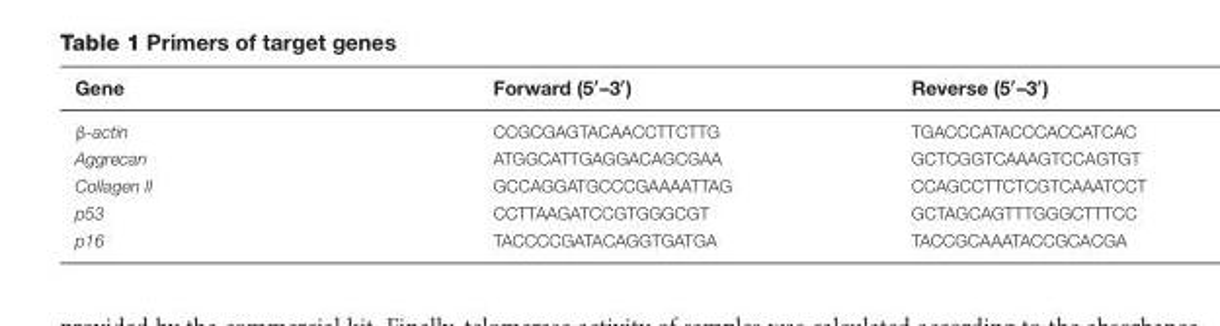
<table><thead><tr><td>Gene</td><td>Forward (5′–3′)</td><td>Reverse (5′–3′)</td></tr></thead><tbody><tr><td>β-actin</td><td>CCGCGAGTACAACCTTCTTG</td><td>TGACCCATACCCACCATCAC</td></tr><tr><td>Aggrecan</td><td>ATGGCATTGAGGACAGCGAA</td><td>GCTCGGTCAAAGTCCAGTGT</td></tr><tr><td>Collagen II</td><td>GCCAGGATGCCCGAAAATTAG</td><td>CCAGCCTTCTCGTCAAATCCT</td></tr><tr><td>p53</td><td>CCTTAAGATCCGTGGGCGT</td><td>GCTAGCAGTTTGGGCTTTCC</td></tr><tr><td>p16</td><td>TACCCCGATACAGGTGATGA</td><td>TACCGCAAATACCGCACGA</td></tr></tbody></table>